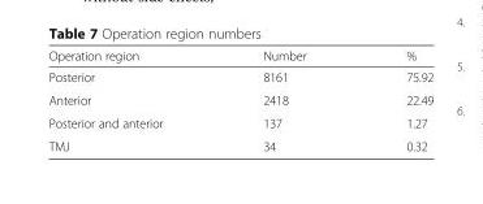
<table><thead><tr><td>Operation region</td><td>Number</td><td>%</td></tr></thead><tbody><tr><td>Posterior</td><td>8161</td><td>75.92</td></tr><tr><td>Anterior</td><td>2418</td><td>22.49</td></tr><tr><td>Posterior and anterior</td><td>137</td><td>1.27</td></tr><tr><td>TMJ</td><td>34</td><td>0.32</td></tr></tbody></table>